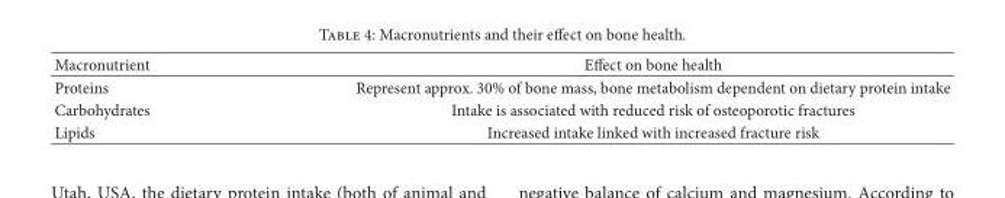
<table><thead><tr><td>Macronutrient</td><td>Effect on bone health</td></tr></thead><tbody><tr><td>Proteins</td><td>Represent approx. 30% of bone mass, bone metabolism dependent on dietary protein intake</td></tr><tr><td>Carbohydrates</td><td>Intake is associated with reduced risk of osteoporotic fractures</td></tr><tr><td>Lipids</td><td>Increased intake linked with increased fracture risk</td></tr></tbody></table>